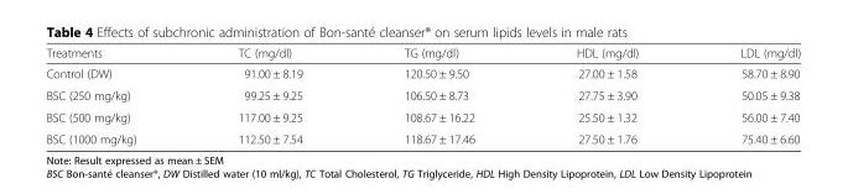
<table><thead><tr><td>Treatments</td><td>TC (mg/dl)</td><td>TG (mg/dl)</td><td>HDL (mg/dl)</td><td>LDL (mg/dl)</td></tr></thead><tbody><tr><td>Control (DW)</td><td>91.00 ± 8.19</td><td>120.50 ± 9.50</td><td>27.00 ± 1.58</td><td>58.70 ± 8.90</td></tr><tr><td>BSC (250 mg/kg)</td><td>99.25 ± 9.25</td><td>106.50 ± 8.73</td><td>27.75 ± 3.90</td><td>50.05 ± 9.38</td></tr><tr><td>BSC (500 mg/kg)</td><td>117.00 ± 9.25</td><td>108.67 ± 16.22</td><td>25.50 ± 1.32</td><td>56.00 ± 7.40</td></tr><tr><td>BSC (1000 mg/kg)</td><td>112.50 ± 7.54</td><td>118.67 ± 17.46</td><td>27.50 ± 1.76</td><td>75.40 ± 6.60</td></tr></tbody></table>